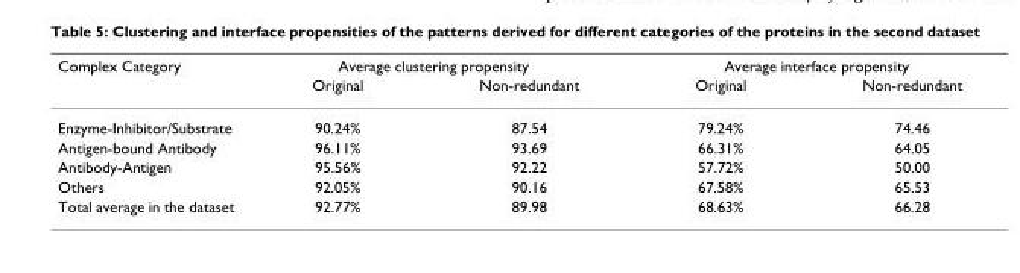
<table><thead><tr><td rowspan="2">Complex Category</td><td colspan="2">Average clustering propensity</td><td colspan="2">Average interface propensity</td></tr><tr><td>Original</td><td>Non-redundant</td><td>Original</td><td>Non-redundant</td></tr></thead><tbody><tr><td>Enzyme-Inhibitor/Substrate</td><td>90.24%</td><td>87.54</td><td>79.24%</td><td>74.46</td></tr><tr><td>Antigen-bound Antibody</td><td>96.11%</td><td>93.69</td><td>66.31%</td><td>64.05</td></tr><tr><td>Antibody-Antigen</td><td>95.56%</td><td>92.22</td><td>57.72%</td><td>50.00</td></tr><tr><td>Others</td><td>92.05%</td><td>90.16</td><td>67.58%</td><td>65.53</td></tr><tr><td>Total average in the dataset</td><td>92.77%</td><td>89.98</td><td>68.63%</td><td>66.28</td></tr></tbody></table>